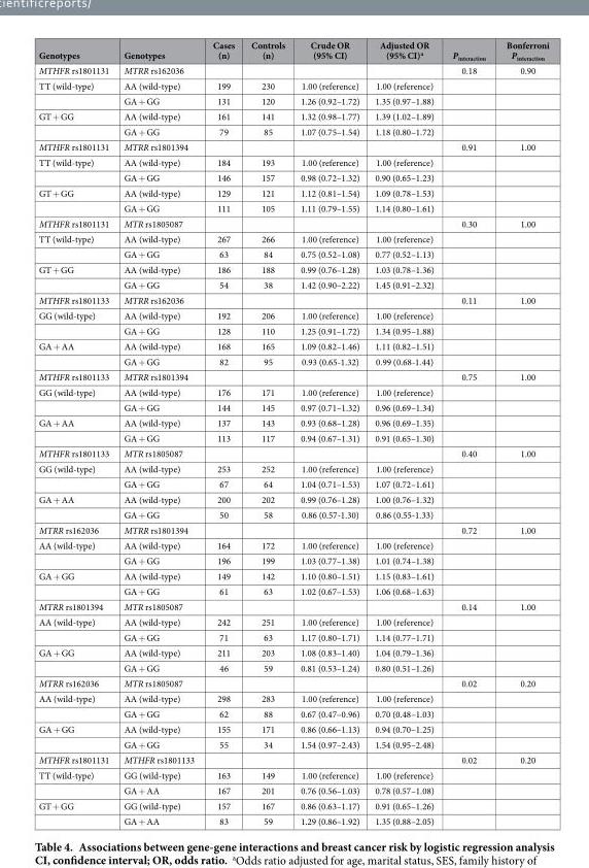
<table><thead><tr><td>Genotypes</td><td>Genotypes</td><td>Cases (n)</td><td>Controls (n)</td><td>Crude OR (95% CI)</td><td>Adjusted OR (95% CI)<sup>a</sup></td><td>P<sub>interaction</sub></td><td>Bonferroni P<sub>interaction</sub></td></tr></thead><tbody><tr><td>MTHFR rs1801131</td><td>MTRR rs162036</td><td></td><td></td><td></td><td></td><td>0.18</td><td>0.90</td></tr><tr><td rowspan="2">TT (wild-type)</td><td>AA (wild-type)</td><td>199</td><td>230</td><td>1.00 (reference)</td><td>1.00 (reference)</td><td></td><td></td></tr><tr><td>GA + GG</td><td>131</td><td>120</td><td>1.26 (0.92–1.72)</td><td>1.35 (0.97–1.88)</td><td></td><td></td></tr><tr><td rowspan="2">GT + GG</td><td>AA (wild-type)</td><td>161</td><td>141</td><td>1.32 (0.98–1.77)</td><td>1.39 (1.02–1.89)</td><td></td><td></td></tr><tr><td>GA + GG</td><td>79</td><td>85</td><td>1.07 (0.75–1.54)</td><td>1.18 (0.80–1.72)</td><td></td><td></td></tr><tr><td>MTHFR rs1801131</td><td>MTRR rs1801394</td><td></td><td></td><td></td><td></td><td>0.91</td><td>1.00</td></tr><tr><td rowspan="2">TT (wild-type)</td><td>AA (wild-type)</td><td>184</td><td>193</td><td>1.00 (reference)</td><td>1.00 (reference)</td><td></td><td></td></tr><tr><td>GA + GG</td><td>146</td><td>157</td><td>0.98 (0.72–1.32)</td><td>0.90 (0.65–1.23)</td><td></td><td></td></tr><tr><td rowspan="2">GT + GG</td><td>AA (wild-type)</td><td>129</td><td>121</td><td>1.12 (0.81–1.54)</td><td>1.09 (0.78–1.53)</td><td></td><td></td></tr><tr><td>GA + GG</td><td>111</td><td>105</td><td>1.11 (0.79–1.55)</td><td>1.14 (0.80–1.61)</td><td></td><td></td></tr><tr><td>MTHFR rs1801131</td><td>MTR rs1805087</td><td></td><td></td><td></td><td></td><td>0.30</td><td>1.00</td></tr><tr><td rowspan="2">TT (wild-type)</td><td>AA (wild-type)</td><td>267</td><td>266</td><td>1.00 (reference)</td><td>1.00 (reference)</td><td></td><td></td></tr><tr><td>GA + GG</td><td>63</td><td>84</td><td>0.75 (0.52–1.08)</td><td>0.77 (0.52–1.13)</td><td></td><td></td></tr><tr><td rowspan="2">GT + GG</td><td>AA (wild-type)</td><td>186</td><td>188</td><td>0.99 (0.76–1.28)</td><td>1.03 (0.78–1.36)</td><td></td><td></td></tr><tr><td>GA + GG</td><td>54</td><td>38</td><td>1.42 (0.90–2.22)</td><td>1.45 (0.91–2.32)</td><td></td><td></td></tr><tr><td>MTHFR rs1801133</td><td>MTRR rs162036</td><td></td><td></td><td></td><td></td><td>0.11</td><td>1.00</td></tr><tr><td rowspan="2">GG (wild-type)</td><td>AA (wild-type)</td><td>192</td><td>206</td><td>1.00 (reference)</td><td>1.00 (reference)</td><td></td><td></td></tr><tr><td>GA + GG</td><td>128</td><td>110</td><td>1.25 (0.91–1.72)</td><td>1.34 (0.95–1.88)</td><td></td><td></td></tr><tr><td rowspan="2">GA + AA</td><td>AA (wild-type)</td><td>168</td><td>165</td><td>1.09 (0.82–1.46)</td><td>1.11 (0.82–1.51)</td><td></td><td></td></tr><tr><td>GA + GG</td><td>82</td><td>95</td><td>0.93 (0.65-1.32)</td><td>0.99 (0.68-1.44)</td><td></td><td></td></tr><tr><td>MTHFR rs1801133</td><td>MTRR rs1801394</td><td></td><td></td><td></td><td></td><td>0.75</td><td>1.00</td></tr><tr><td rowspan="2">GG (wild-type)</td><td>AA (wild-type)</td><td>176</td><td>171</td><td>1.00 (reference)</td><td>1.00 (reference)</td><td></td><td></td></tr><tr><td>GA + GG</td><td>144</td><td>145</td><td>0.97 (0.71–1.32)</td><td>0.96 (0.69–1.34)</td><td></td><td></td></tr><tr><td rowspan="2">GA + AA</td><td>AA (wild-type)</td><td>137</td><td>143</td><td>0.93 (0.68–1.28)</td><td>0.96 (0.69–1.35)</td><td></td><td></td></tr><tr><td>GA + GG</td><td>113</td><td>117</td><td>0.94 (0.67–1.31)</td><td>0.91 (0.65–1.30)</td><td></td><td></td></tr><tr><td>MTHFR rs1801133</td><td>MTR rs1805087</td><td></td><td></td><td></td><td></td><td>0.40</td><td>1.00</td></tr><tr><td rowspan="2">GG (wild-type)</td><td>AA (wild-type)</td><td>253</td><td>252</td><td>1.00 (reference)</td><td>1.00 (reference)</td><td></td><td></td></tr><tr><td>GA + GG</td><td>67</td><td>64</td><td>1.04 (0.71–1.53)</td><td>1.07 (0.72–1.61)</td><td></td><td></td></tr><tr><td rowspan="2">GA + AA</td><td>AA (wild-type)</td><td>200</td><td>202</td><td>0.99 (0.76–1.28)</td><td>1.00 (0.76–1.32)</td><td></td><td></td></tr><tr><td>GA + GG</td><td>50</td><td>58</td><td>0.86 (0.57-1.30)</td><td>0.86 (0.55-1.33)</td><td></td><td></td></tr><tr><td>MTRR rs162036</td><td>MTRR rs1801394</td><td></td><td></td><td></td><td></td><td>0.72</td><td>1.00</td></tr><tr><td rowspan="2">AA (wild-type)</td><td>AA (wild-type)</td><td>164</td><td>172</td><td>1.00 (reference)</td><td>1.00 (reference)</td><td></td><td></td></tr><tr><td>GA + GG</td><td>196</td><td>199</td><td>1.03 (0.77–1.38)</td><td>1.01 (0.74–1.38)</td><td></td><td></td></tr><tr><td rowspan="2">GA + GG</td><td>AA (wild-type)</td><td>149</td><td>142</td><td>1.10 (0.80–1.51)</td><td>1.15 (0.83–1.61)</td><td></td><td></td></tr><tr><td>GA + GG</td><td>61</td><td>63</td><td>1.02 (0.67–1.53)</td><td>1.06 (0.68–1.63)</td><td></td><td></td></tr><tr><td>MTRR rs1801394</td><td>MTR rs1805087</td><td></td><td></td><td></td><td></td><td>0.14</td><td>1.00</td></tr><tr><td rowspan="2">AA (wild-type)</td><td>AA (wild-type)</td><td>242</td><td>251</td><td>1.00 (reference)</td><td>1.00 (reference)</td><td></td><td></td></tr><tr><td>GA + GG</td><td>71</td><td>63</td><td>1.17 (0.80–1.71)</td><td>1.14 (0.77–1.71)</td><td></td><td></td></tr><tr><td rowspan="2">GA + GG</td><td>AA (wild-type)</td><td>211</td><td>203</td><td>1.08 (0.83–1.40)</td><td>1.04 (0.79–1.36)</td><td></td><td></td></tr><tr><td>GA + GG</td><td>46</td><td>59</td><td>0.81 (0.53–1.24)</td><td>0.80 (0.51–1.26)</td><td></td><td></td></tr><tr><td>MTRR rs162036</td><td>MTR rs1805087</td><td></td><td></td><td></td><td></td><td>0.02</td><td>0.20</td></tr><tr><td rowspan="2">AA (wild-type)</td><td>AA (wild-type)</td><td>298</td><td>283</td><td>1.00 (reference)</td><td>1.00 (reference)</td><td></td><td></td></tr><tr><td>GA + GG</td><td>62</td><td>88</td><td>0.67 (0.47–0.96)</td><td>0.70 (0.48–1.03)</td><td></td><td></td></tr><tr><td rowspan="2">GA + GG</td><td>AA (wild-type)</td><td>155</td><td>171</td><td>0.86 (0.66–1.13)</td><td>0.94 (0.70–1.25)</td><td></td><td></td></tr><tr><td>GA + GG</td><td>55</td><td>34</td><td>1.54 (0.97–2.43)</td><td>1.54 (0.95–2.48)</td><td></td><td></td></tr><tr><td>MTHFR rs1801131</td><td>MTHFR rs1801133</td><td></td><td></td><td></td><td></td><td>0.02</td><td>0.20</td></tr><tr><td rowspan="2">TT (wild-type)</td><td>GG (wild-type)</td><td>163</td><td>149</td><td>1.00 (reference)</td><td>1.00 (reference)</td><td></td><td></td></tr><tr><td>GA + AA</td><td>167</td><td>201</td><td>0.76 (0.56–1.03)</td><td>0.78 (0.57–1.08)</td><td></td><td></td></tr><tr><td rowspan="2">GT + GG</td><td>GG (wild-type)</td><td>157</td><td>167</td><td>0.86 (0.63–1.17)</td><td>0.91 (0.65–1.26)</td><td></td><td></td></tr><tr><td>GA + AA</td><td>83</td><td>59</td><td>1.29 (0.86–1.92)</td><td>1.35 (0.88–2.05)</td><td></td><td></td></tr></tbody></table>